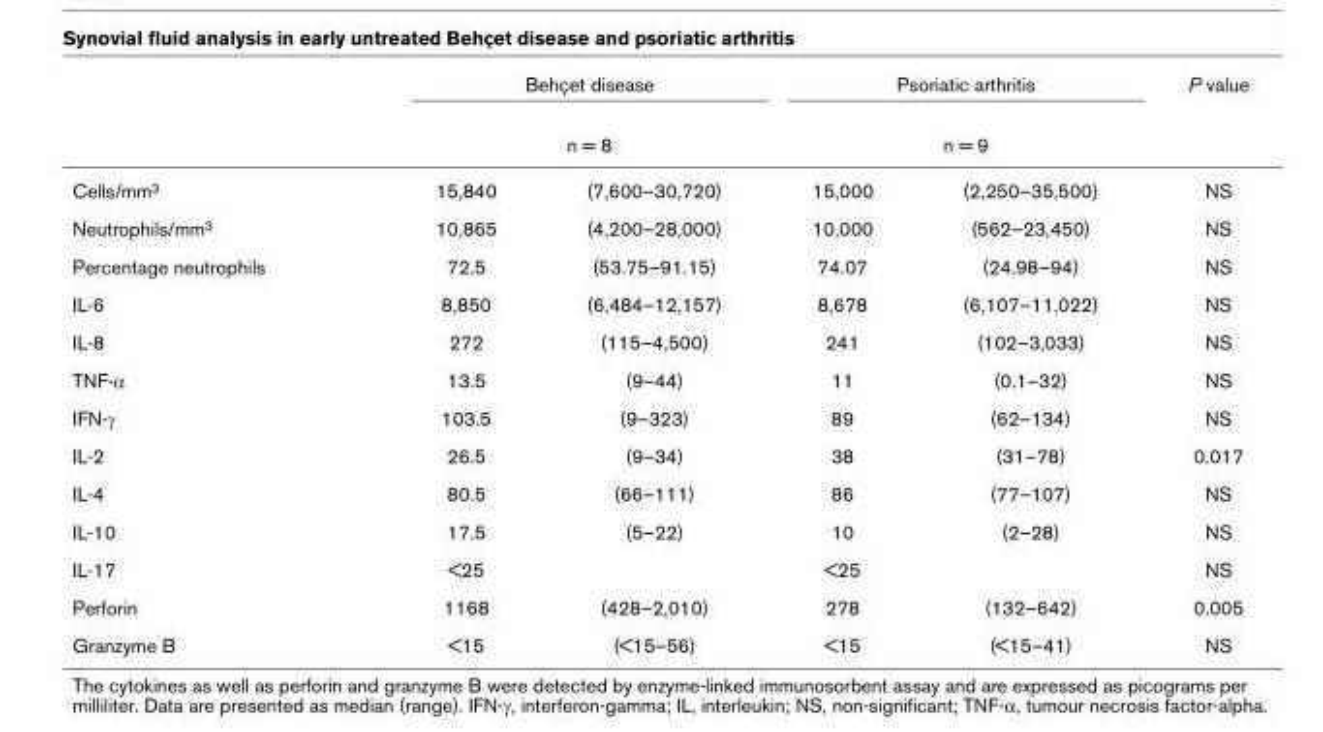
<table><thead><tr><td rowspan="3">Cells/mm<sup>3</sup></td><td rowspan="2" colspan="2">Behçet disease n = 8</td><td rowspan="2" colspan="2">Psoriatic arthritis n = 9</td><td rowspan="3">P value NS</td></tr><tr></tr><tr><td>15,840</td><td>(7,600–30,720)</td><td>15,000</td><td>(2,250–35,500)</td></tr></thead><tbody><tr><td>Neutrophils/mm<sup>3</sup></td><td>10,865</td><td>(4,200–28,000)</td><td>10,000</td><td>(562–23,450)</td><td>NS</td></tr><tr><td>Percentage neutrophils</td><td>72.5</td><td>(53.75–91.15)</td><td>74.07</td><td>(24.98–94)</td><td>NS</td></tr><tr><td>IL-6</td><td>8,850</td><td>(6,484–12,157)</td><td>8,678</td><td>(6,107–11,022)</td><td>NS</td></tr><tr><td>IL-8</td><td>272</td><td>(115–4,500)</td><td>241</td><td>(102–3,033)</td><td>NS</td></tr><tr><td>TNF-α</td><td>13.5</td><td>(9–44)</td><td>11</td><td>(0.1–32)</td><td>NS</td></tr><tr><td>IFN-γ</td><td>103.5</td><td>(9–323)</td><td>89</td><td>(62–134)</td><td>NS</td></tr><tr><td>IL-2</td><td>26.5</td><td>(9–34)</td><td>38</td><td>(31–78)</td><td>0.017</td></tr><tr><td>IL-4</td><td>80.5</td><td>(66–111)</td><td>86</td><td>(77–107)</td><td>NS</td></tr><tr><td>IL-10</td><td>17.5</td><td>(5–22)</td><td>10</td><td>(2–28)</td><td>NS</td></tr><tr><td>IL-17</td><td>&lt;25</td><td></td><td>&lt;25</td><td></td><td>NS</td></tr><tr><td>Perforin</td><td>1168</td><td>(428–2,010)</td><td>278</td><td>(132–642)</td><td>0.005</td></tr><tr><td>Granzyme B</td><td>&lt;15</td><td>(&lt;15–56)</td><td>&lt;15</td><td>(&lt;15–41)</td><td>NS</td></tr></tbody></table>